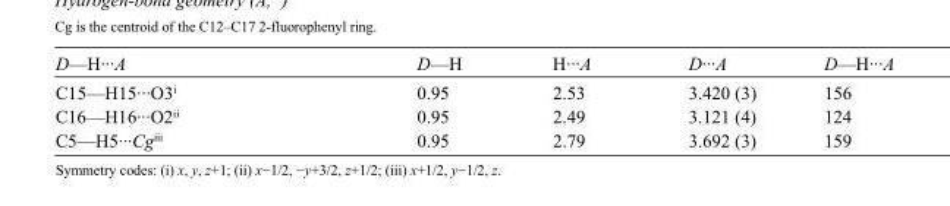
<table><tbody><tr><td>D—H···A</td><td>D—H</td><td>H···A</td><td>D···A</td><td>D—H···A</td></tr><tr><td>C15—H15···O3<sup>i</sup></td><td>0.95</td><td>2.53</td><td>3.420 (3)</td><td>156</td></tr><tr><td>C16—H16···O2<sup>ii</sup></td><td>0.95</td><td>2.49</td><td>3.121 (4)</td><td>124</td></tr><tr><td>C5—H5···Cg<sup>iii</sup></td><td>0.95</td><td>2.79</td><td>3.692 (3)</td><td>159</td></tr></tbody></table>